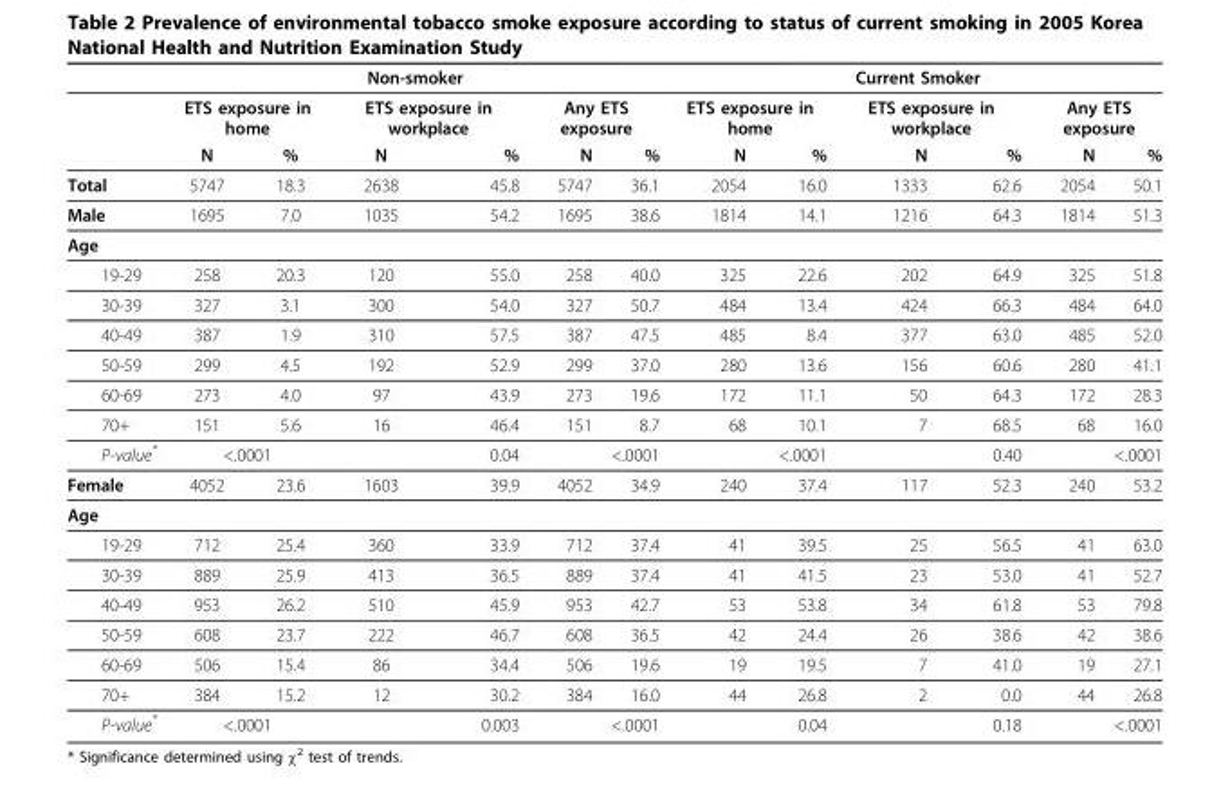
<table><thead><tr><td rowspan="3"></td><td colspan="6">Non-smoker</td><td colspan="6">Current Smoker</td></tr><tr><td colspan="2">ETS exposure in home</td><td colspan="2">ETS exposure in workplace</td><td colspan="2">Any ETS exposure</td><td colspan="2">ETS exposure in home</td><td colspan="2">ETS exposure in workplace</td><td colspan="2">Any ETS exposure</td></tr><tr><td>N</td><td>%</td><td>N</td><td>%</td><td>N</td><td>%</td><td>N</td><td>%</td><td>N</td><td>%</td><td>N</td><td>%</td></tr></thead><tbody><tr><td>Total</td><td>5747</td><td>18.3</td><td>2638</td><td>45.8</td><td>5747</td><td>36.1</td><td>2054</td><td>16.0</td><td>1333</td><td>62.6</td><td>2054</td><td>50.1</td></tr><tr><td>Male</td><td>1695</td><td>7.0</td><td>1035</td><td>54.2</td><td>1695</td><td>38.6</td><td>1814</td><td>14.1</td><td>1216</td><td>64.3</td><td>1814</td><td>51.3</td></tr><tr><td colspan="13">Age</td></tr><tr><td>19-29</td><td>258</td><td>20.3</td><td>120</td><td>55.0</td><td>258</td><td>40.0</td><td>325</td><td>22.6</td><td>202</td><td>64.9</td><td>325</td><td>51.8</td></tr><tr><td>30-39</td><td>327</td><td>3.1</td><td>300</td><td>54.0</td><td>327</td><td>50.7</td><td>484</td><td>13.4</td><td>424</td><td>66.3</td><td>484</td><td>64.0</td></tr><tr><td>40-49</td><td>387</td><td>1.9</td><td>310</td><td>57.5</td><td>387</td><td>47.5</td><td>485</td><td>8.4</td><td>377</td><td>63.0</td><td>485</td><td>52.0</td></tr><tr><td>50-59</td><td>299</td><td>4.5</td><td>192</td><td>52.9</td><td>299</td><td>37.0</td><td>280</td><td>13.6</td><td>156</td><td>60.6</td><td>280</td><td>41.1</td></tr><tr><td>60-69</td><td>273</td><td>4.0</td><td>97</td><td>43.9</td><td>273</td><td>19.6</td><td>172</td><td>11.1</td><td>50</td><td>64.3</td><td>172</td><td>28.3</td></tr><tr><td>70+</td><td>151</td><td>5.6</td><td>16</td><td>46.4</td><td>151</td><td>8.7</td><td>68</td><td>10.1</td><td>7</td><td>68.5</td><td>68</td><td>16.0</td></tr><tr><td>P-value*</td><td colspan="2">&lt;.0001</td><td colspan="2">0.04</td><td colspan="2">&lt;.0001</td><td colspan="2">&lt;.0001</td><td colspan="2">0.40</td><td colspan="2">&lt;.0001</td></tr><tr><td>Female</td><td>4052</td><td>23.6</td><td>1603</td><td>39.9</td><td>4052</td><td>34.9</td><td>240</td><td>37.4</td><td>117</td><td>52.3</td><td>240</td><td>53.2</td></tr><tr><td colspan="13">Age</td></tr><tr><td>19-29</td><td>712</td><td>25.4</td><td>360</td><td>33.9</td><td>712</td><td>37.4</td><td>41</td><td>39.5</td><td>25</td><td>56.5</td><td>41</td><td>63.0</td></tr><tr><td>30-39</td><td>889</td><td>25.9</td><td>413</td><td>36.5</td><td>889</td><td>37.4</td><td>41</td><td>41.5</td><td>23</td><td>53.0</td><td>41</td><td>52.7</td></tr><tr><td>40-49</td><td>953</td><td>26.2</td><td>510</td><td>45.9</td><td>953</td><td>42.7</td><td>53</td><td>53.8</td><td>34</td><td>61.8</td><td>53</td><td>79.8</td></tr><tr><td>50-59</td><td>608</td><td>23.7</td><td>222</td><td>46.7</td><td>608</td><td>36.5</td><td>42</td><td>24.4</td><td>26</td><td>38.6</td><td>42</td><td>38.6</td></tr><tr><td>60-69</td><td>506</td><td>15.4</td><td>86</td><td>34.4</td><td>506</td><td>19.6</td><td>19</td><td>19.5</td><td>7</td><td>41.0</td><td>19</td><td>27.1</td></tr><tr><td>70+</td><td>384</td><td>15.2</td><td>12</td><td>30.2</td><td>384</td><td>16.0</td><td>44</td><td>26.8</td><td>2</td><td>0.0</td><td>44</td><td>26.8</td></tr><tr><td>P-value*</td><td colspan="2">&lt;.0001</td><td colspan="2">0.003</td><td colspan="2">&lt;.0001</td><td colspan="2">0.04</td><td colspan="2">0.18</td><td colspan="2">&lt;.0001</td></tr></tbody></table>